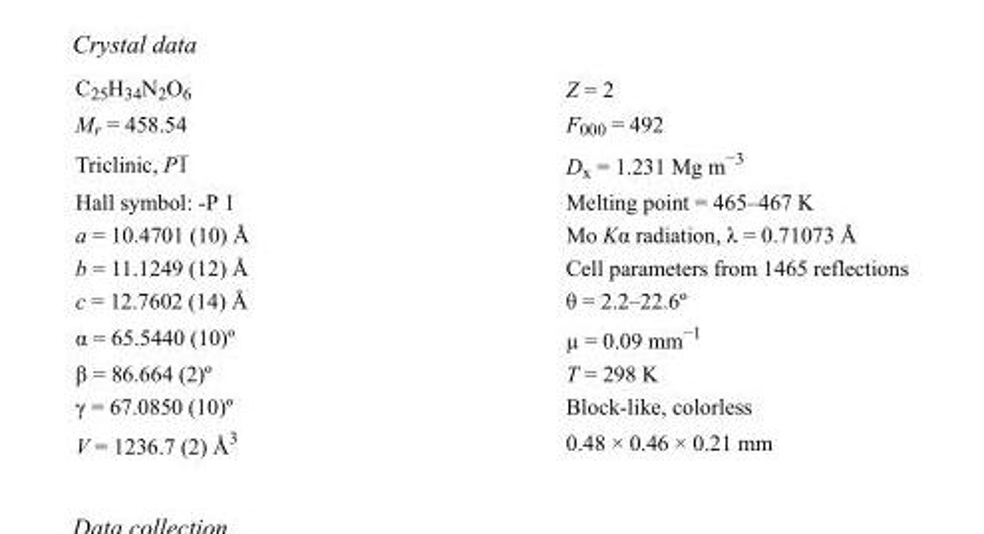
<table><tbody><tr><td>C<sub>25</sub>H<sub>34</sub>N<sub>2</sub>O<sub>6</sub></td><td>Z = 2</td></tr><tr><td>M<sub>r</sub> = 458.54</td><td>F000 = 492</td></tr><tr><td>Triclinic, P1</td><td>D<sub>x</sub> = 1.231 Mg m<sup>−3</sup></td></tr><tr><td>Hall symbol: -P 1</td><td>Melting point = 465–467 K</td></tr><tr><td>a = 10.4701 (10) Å</td><td>Mo Kα radiation, λ = 0.71073 Å</td></tr><tr><td>b = 11.1249 (12) Å</td><td>Cell parameters from 1465 reflections</td></tr><tr><td>c = 12.7602 (14) Å</td><td>θ = 2.2–22.6º</td></tr><tr><td>α = 65.5440 (10)º</td><td>µ = 0.09 mm<sup>−1</sup></td></tr><tr><td>β = 86.664 (2)º</td><td>T = 298 K</td></tr><tr><td>γ = 67.0850 (10)º</td><td>Block-like, colorless</td></tr><tr><td>V = 1236.7 (2) Å<sup>3</sup></td><td>0.48 × 0.46 × 0.21 mm</td></tr></tbody></table>